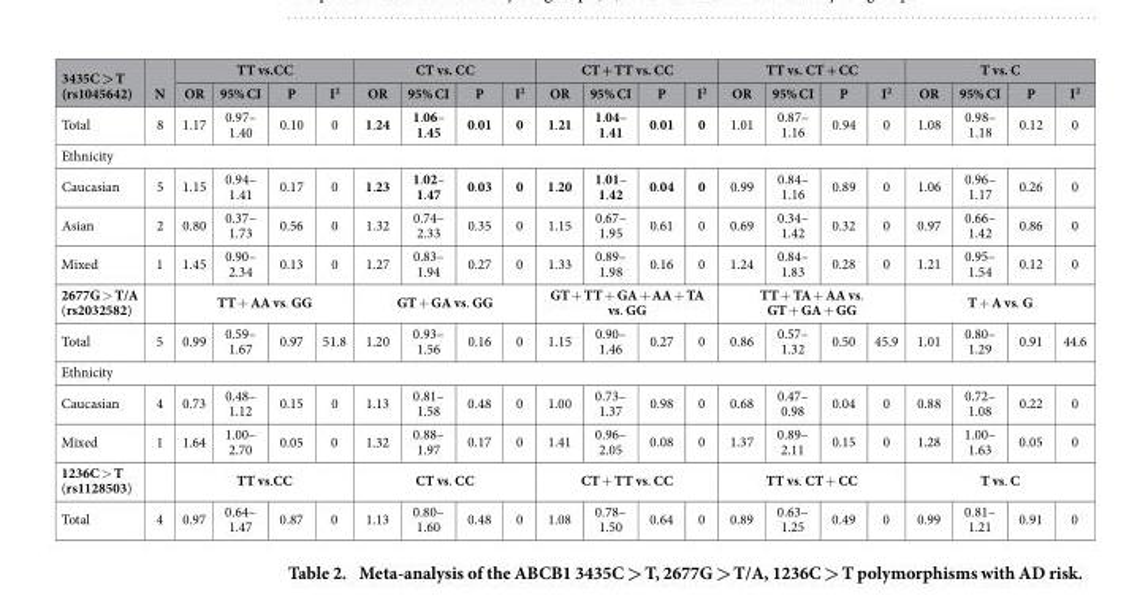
<table><thead><tr><td rowspan="2">3435C &gt; T (rs1045642)</td><td rowspan="2">N</td><td colspan="4">TT vs.CC</td><td colspan="4">CT vs. CC</td><td colspan="4">CT + TT vs. CC</td><td colspan="4">TT vs. CT + CC</td><td colspan="4">T vs. C</td></tr><tr><td>OR</td><td>95% CI</td><td>P</td><td>I<sup>2</sup></td><td>OR</td><td>95% CI</td><td>P</td><td>I<sup>2</sup></td><td>OR</td><td>95% CI</td><td>P</td><td>I<sup>2</sup></td><td>OR</td><td>95% CI</td><td>P</td><td>I<sup>2</sup></td><td>OR</td><td>95% CI</td><td>P</td><td>I<sup>2</sup></td></tr></thead><tbody><tr><td>Total</td><td>8</td><td>1.17</td><td>0.97– 1.40</td><td>0.10</td><td>0</td><td>1.24</td><td>1.06– 1.45</td><td>0.01</td><td>0</td><td>1.21</td><td>1.04– 1.41</td><td>0.01</td><td>0</td><td>1.01</td><td>0.87– 1.16</td><td>0.94</td><td>0</td><td>1.08</td><td>0.98– 1.18</td><td>0.12</td><td>0</td></tr><tr><td colspan="22">Ethnicity</td></tr><tr><td>Caucasian</td><td>5</td><td>1.15</td><td>0.94– 1.41</td><td>0.17</td><td>0</td><td>1.23</td><td>1.02– 1.47</td><td>0.03</td><td>0</td><td>1.20</td><td>1.01– 1.42</td><td>0.04</td><td>0</td><td>0.99</td><td>0.84– 1.16</td><td>0.89</td><td>0</td><td>1.06</td><td>0.96– 1.17</td><td>0.26</td><td>0</td></tr><tr><td>Asian</td><td>2</td><td>0.80</td><td>0.37– 1.73</td><td>0.56</td><td>0</td><td>1.32</td><td>0.74– 2.33</td><td>0.35</td><td>0</td><td>1.15</td><td>0.67– 1.95</td><td>0.61</td><td>0</td><td>0.69</td><td>0.34– 1.42</td><td>0.32</td><td>0</td><td>0.97</td><td>0.66– 1.42</td><td>0.86</td><td>0</td></tr><tr><td>Mixed</td><td>1</td><td>1.45</td><td>0.90– 2.34</td><td>0.13</td><td>0</td><td>1.27</td><td>0.83– 1.94</td><td>0.27</td><td>0</td><td>1.33</td><td>0.89– 1.98</td><td>0.16</td><td>0</td><td>1.24</td><td>0.84– 1.83</td><td>0.28</td><td>0</td><td>1.21</td><td>0.95– 1.54</td><td>0.12</td><td>0</td></tr><tr><td>2677G &gt; T/A (rs2032582)</td><td></td><td colspan="4">TT + AA vs. GG</td><td colspan="4">GT + GA vs. GG</td><td colspan="4">GT + TT + GA + AA + TA vs. GG</td><td colspan="4">TT + TA + AA vs. GT + GA + GG</td><td colspan="4">T + A vs. G</td></tr><tr><td>Total</td><td>5</td><td>0.99</td><td>0.59– 1.67</td><td>0.97</td><td>51.8</td><td>1.20</td><td>0.93– 1.56</td><td>0.16</td><td>0</td><td>1.15</td><td>0.90– 1.46</td><td>0.27</td><td>0</td><td>0.86</td><td>0.57– 1.32</td><td>0.50</td><td>45.9</td><td>1.01</td><td>0.80– 1.29</td><td>0.91</td><td>44.6</td></tr><tr><td colspan="22">Ethnicity</td></tr><tr><td>Caucasian</td><td>4</td><td>0.73</td><td>0.48– 1.12</td><td>0.15</td><td>0</td><td>1.13</td><td>0.81– 1.58</td><td>0.48</td><td>0</td><td>1.00</td><td>0.73– 1.37</td><td>0.98</td><td>0</td><td>0.68</td><td>0.47– 0.98</td><td>0.04</td><td>0</td><td>0.88</td><td>0.72– 1.08</td><td>0.22</td><td>0</td></tr><tr><td>Mixed</td><td>1</td><td>1.64</td><td>1.00– 2.70</td><td>0.05</td><td>0</td><td>1.32</td><td>0.88– 1.97</td><td>0.17</td><td>0</td><td>1.41</td><td>0.96– 2.05</td><td>0.08</td><td>0</td><td>1.37</td><td>0.89– 2.11</td><td>0.15</td><td>0</td><td>1.28</td><td>1.00– 1.63</td><td>0.05</td><td>0</td></tr><tr><td>1236C &gt; T (rs1128503)</td><td></td><td colspan="4">TT vs.CC</td><td colspan="4">CT vs. CC</td><td colspan="4">CT + TT vs. CC</td><td colspan="4">TT vs. CT + CC</td><td colspan="4">T vs. C</td></tr><tr><td>Total</td><td>4</td><td>0.97</td><td>0.64– 1.47</td><td>0.87</td><td>0</td><td>1.13</td><td>0.80– 1.60</td><td>0.48</td><td>0</td><td>1.08</td><td>0.78– 1.50</td><td>0.64</td><td>0</td><td>0.89</td><td>0.63– 1.25</td><td>0.49</td><td>0</td><td>0.99</td><td>0.81– 1.21</td><td>0.91</td><td>0</td></tr></tbody></table>